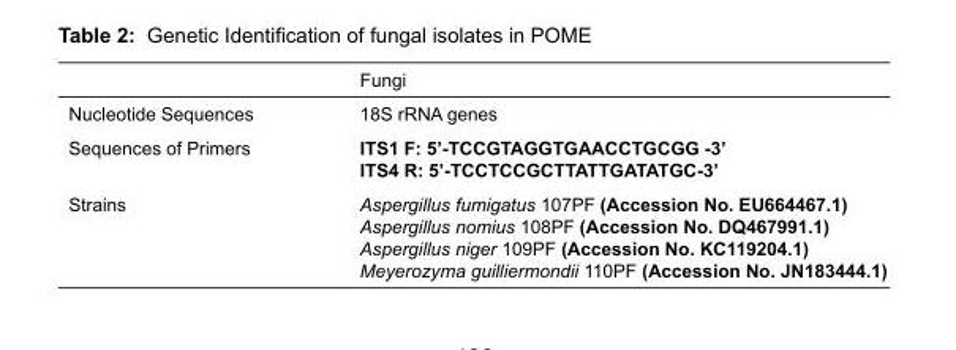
<table><thead><tr><td></td><td>Fungi</td></tr></thead><tbody><tr><td>Nucleotide Sequences</td><td>18S rRNA genes</td></tr><tr><td rowspan="2">Sequences of Primers</td><td>ITS1 F: 5’-TCCGTAGGTGAACCTGCGG -3’</td></tr><tr><td>ITS4 R: 5’-TCCTCCGCTTATTGATATGC-3’</td></tr><tr><td rowspan="4">Strains</td><td>Aspergillus fumigatus 107PF (Accession No. EU664467.1)</td></tr><tr><td>Aspergillus nomius 108PF (Accession No. DQ467991.1)</td></tr><tr><td>Aspergillus niger 109PF (Accession No. KC119204.1)</td></tr><tr><td>Meyerozyma guilliermondii 110PF (Accession No. JN183444.1)</td></tr></tbody></table>